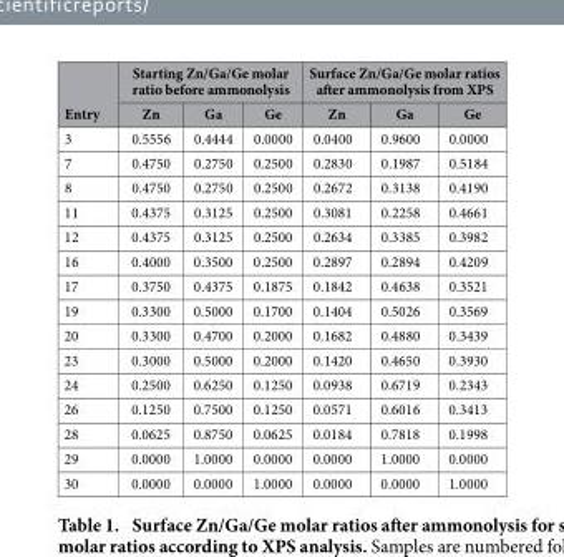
<table><thead><tr><td rowspan="2">Entry</td><td colspan="3">Starting Zn/Ga/Ge molar ratio before ammonolysis</td><td colspan="3">Surface Zn/Ga/Ge molar ratios after ammonolysis from XPS</td></tr><tr><td>Zn</td><td>Ga</td><td>Ge</td><td>Zn</td><td>Ga</td><td>Ge</td></tr></thead><tbody><tr><td>3</td><td>0.5556</td><td>0.4444</td><td>0.0000</td><td>0.0400</td><td>0.9600</td><td>0.0000</td></tr><tr><td>7</td><td>0.4750</td><td>0.2750</td><td>0.2500</td><td>0.2830</td><td>0.1987</td><td>0.5184</td></tr><tr><td>8</td><td>0.4750</td><td>0.2750</td><td>0.2500</td><td>0.2672</td><td>0.3138</td><td>0.4190</td></tr><tr><td>11</td><td>0.4375</td><td>0.3125</td><td>0.2500</td><td>0.3081</td><td>0.2258</td><td>0.4661</td></tr><tr><td>12</td><td>0.4375</td><td>0.3125</td><td>0.2500</td><td>0.2634</td><td>0.3385</td><td>0.3982</td></tr><tr><td>16</td><td>0.4000</td><td>0.3500</td><td>0.2500</td><td>0.2897</td><td>0.2894</td><td>0.4209</td></tr><tr><td>17</td><td>0.3750</td><td>0.4375</td><td>0.1875</td><td>0.1842</td><td>0.4638</td><td>0.3521</td></tr><tr><td>19</td><td>0.3300</td><td>0.5000</td><td>0.1700</td><td>0.1404</td><td>0.5026</td><td>0.3569</td></tr><tr><td>20</td><td>0.3300</td><td>0.4700</td><td>0.2000</td><td>0.1682</td><td>0.4880</td><td>0.3439</td></tr><tr><td>23</td><td>0.3000</td><td>0.5000</td><td>0.2000</td><td>0.1420</td><td>0.4650</td><td>0.3930</td></tr><tr><td>24</td><td>0.2500</td><td>0.6250</td><td>0.1250</td><td>0.0938</td><td>0.6719</td><td>0.2343</td></tr><tr><td>26</td><td>0.1250</td><td>0.7500</td><td>0.1250</td><td>0.0571</td><td>0.6016</td><td>0.3413</td></tr><tr><td>28</td><td>0.0625</td><td>0.8750</td><td>0.0625</td><td>0.0184</td><td>0.7818</td><td>0.1998</td></tr><tr><td>29</td><td>0.0000</td><td>1.0000</td><td>0.0000</td><td>0.0000</td><td>1.0000</td><td>0.0000</td></tr><tr><td>30</td><td>0.0000</td><td>0.0000</td><td>1.0000</td><td>0.0000</td><td>0.0000</td><td>1.0000</td></tr></tbody></table>